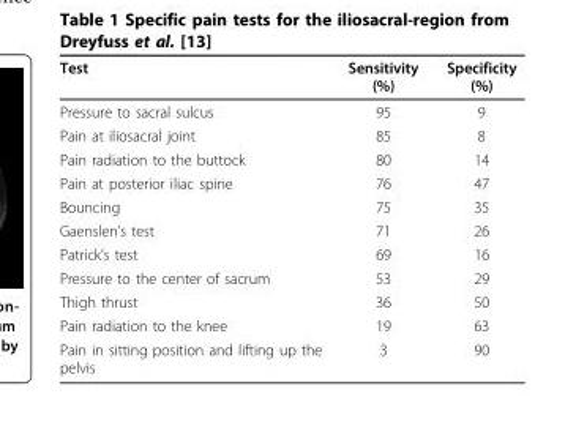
<table><thead><tr><td>Test</td><td>Sensitivity (%)</td><td>Specificity (%)</td></tr></thead><tbody><tr><td>Pressure to sacral sulcus</td><td>95</td><td>9</td></tr><tr><td>Pain at iliosacral joint</td><td>85</td><td>8</td></tr><tr><td>Pain radiation to the buttock</td><td>80</td><td>14</td></tr><tr><td>Pain at posterior iliac spine</td><td>76</td><td>47</td></tr><tr><td>Bouncing</td><td>75</td><td>35</td></tr><tr><td>Gaenslen’s test</td><td>71</td><td>26</td></tr><tr><td>Patrick’s test</td><td>69</td><td>16</td></tr><tr><td>Pressure to the center of sacrum</td><td>53</td><td>29</td></tr><tr><td>Thigh thrust</td><td>36</td><td>50</td></tr><tr><td>Pain radiation to the knee</td><td>19</td><td>63</td></tr><tr><td>Pain in sitting position and lifting up the pelvis</td><td>3</td><td>90</td></tr></tbody></table>